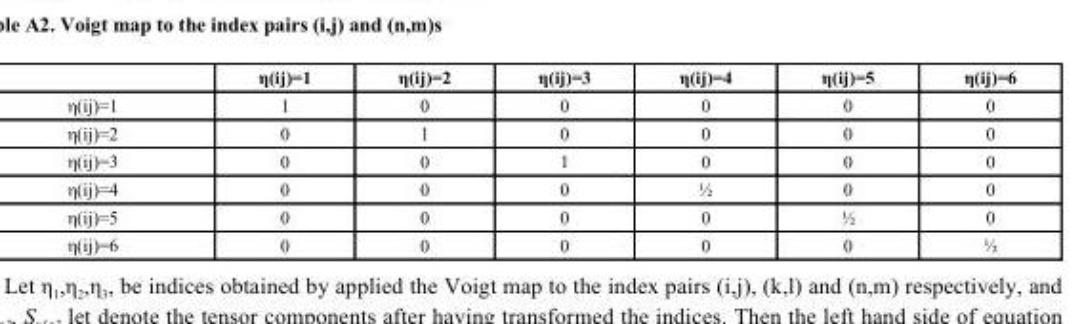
<table><thead><tr><td></td><td>η(ij)=1</td><td>η(ij)=2</td><td>η(ij)=3</td><td>η(ij)=4</td><td>η(ij)=5</td><td>η(ij)=6</td></tr></thead><tbody><tr><td>η(ij)=1</td><td>1</td><td>0</td><td>0</td><td>0</td><td>0</td><td>0</td></tr><tr><td>η(ij)=2</td><td>0</td><td>1</td><td>0</td><td>0</td><td>0</td><td>0</td></tr><tr><td>η(ij)=3</td><td>0</td><td>0</td><td>1</td><td>0</td><td>0</td><td>0</td></tr><tr><td>η(ij)=4</td><td>0</td><td>0</td><td>0</td><td>½</td><td>0</td><td>0</td></tr><tr><td>η(ij)=5</td><td>0</td><td>0</td><td>0</td><td>0</td><td>½</td><td>0</td></tr><tr><td>η(ij)=6</td><td>0</td><td>0</td><td>0</td><td>0</td><td>0</td><td>½</td></tr></tbody></table>